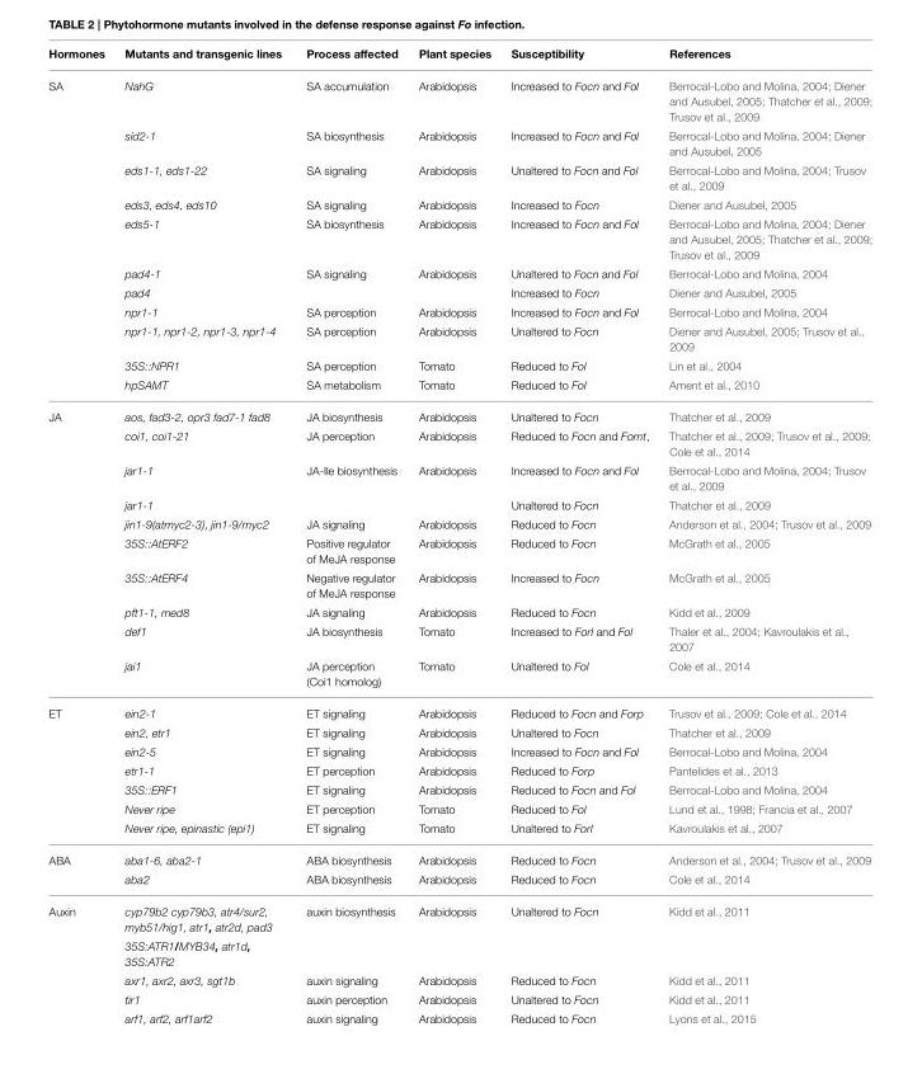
<table><thead><tr><td>Hormones</td><td>Mutants and transgenic lines</td><td>Process affected</td><td>Plant species</td><td>Susceptibility</td><td>References</td></tr></thead><tbody><tr><td rowspan="11">SA</td><td>NahG</td><td>SA accumulation</td><td>Arabidopsis</td><td>Increased to Focn and Fol</td><td>Berrocal-Lobo and Molina, 2004; Diener and Ausubel, 2005; Thatcher et al., 2009; Trusov et al., 2009</td></tr><tr><td>sid2-1</td><td>SA biosynthesis</td><td>Arabidopsis</td><td>Increased to Focn and Fol</td><td>Berrocal-Lobo and Molina, 2004; Diener and Ausubel, 2005</td></tr><tr><td>eds1-1, eds1-22</td><td>SA signaling</td><td>Arabidopsis</td><td>Unaltered to Focn and Fol</td><td>Berrocal-Lobo and Molina, 2004; Trusov et al., 2009</td></tr><tr><td>eds3, eds4, eds10</td><td>SA signaling</td><td>Arabidopsis</td><td>Increased to Focn</td><td>Diener and Ausubel, 2005</td></tr><tr><td>eds5-1</td><td>SA biosynthesis</td><td>Arabidopsis</td><td>Increased to Focn and Fol</td><td>Berrocal-Lobo and Molina, 2004; Diener and Ausubel, 2005; Thatcher et al., 2009; Trusov et al., 2009</td></tr><tr><td>pad4-1</td><td>SA signaling</td><td>Arabidopsis</td><td>Unaltered to Focn and Fol</td><td>Berrocal-Lobo and Molina, 2004</td></tr><tr><td>pad4</td><td></td><td></td><td>Increased to Focn</td><td>Diener and Ausubel, 2005</td></tr><tr><td>npr1-1</td><td>SA perception</td><td>Arabidopsis</td><td>Increased to Focn and Fol</td><td>Berrocal-Lobo and Molina, 2004</td></tr><tr><td>npr1-1, npr1-2, npr1-3, npr1-4</td><td>SA perception</td><td>Arabidopsis</td><td>Unaltered to Focn</td><td>Diener and Ausubel, 2005; Trusov et al., 2009</td></tr><tr><td>35S::NPR1</td><td>SA perception</td><td>Tomato</td><td>Reduced to Fol</td><td>Lin et al., 2004</td></tr><tr><td>hpSAMT</td><td>SA metabolism</td><td>Tomato</td><td>Reduced to Fol</td><td>Ament et al., 2010</td></tr><tr><td rowspan="10">JA</td><td>aos, fad3-2, opr3 fad7-1 fad8</td><td>JA biosynthesis</td><td>Arabidopsis</td><td>Unaltered to Focn</td><td>Thatcher et al., 2009</td></tr><tr><td>coi1, coi1-21</td><td>JA perception</td><td>Arabidopsis</td><td>Reduced to Focn and Fomt,</td><td>Thatcher et al., 2009; Trusov et al., 2009; Cole et al., 2014</td></tr><tr><td>jar1-1</td><td>JA-Ile biosynthesis</td><td>Arabidopsis</td><td>Increased to Focn and Fol</td><td>Berrocal-Lobo and Molina, 2004; Trusov et al., 2009</td></tr><tr><td>jar1-1</td><td></td><td></td><td>Unaltered to Focn</td><td>Thatcher et al., 2009</td></tr><tr><td>jin1-9(atmyc2-3), jin1-9/myc2</td><td>JA signaling</td><td>Arabidopsis</td><td>Reduced to Focn</td><td>Anderson et al., 2004; Trusov et al., 2009</td></tr><tr><td>35S::AtERF2</td><td>Positive regulator of MeJA response</td><td>Arabidopsis</td><td>Reduced to Focn</td><td>McGrath et al., 2005</td></tr><tr><td>35S::AtERF4</td><td>Negative regulator of MeJA response</td><td>Arabidopsis</td><td>Increased to Focn</td><td>McGrath et al., 2005</td></tr><tr><td>pft1-1, med8</td><td>JA signaling</td><td>Arabidopsis</td><td>Reduced to Focn</td><td>Kidd et al., 2009</td></tr><tr><td>def1</td><td>JA biosynthesis</td><td>Tomato</td><td>Increased to Forl and Fol</td><td>Thaler et al., 2004; Kavroulakis et al., 2007</td></tr><tr><td>jai1</td><td>JA perception (Coi1 homolog)</td><td>Tomato</td><td>Unaltered to Fol</td><td>Cole et al., 2014</td></tr><tr><td rowspan="7">ET</td><td>ein2-1</td><td>ET signaling</td><td>Arabidopsis</td><td>Reduced to Focn and Forp</td><td>Trusov et al., 2009; Cole et al., 2014</td></tr><tr><td>ein2, etr1</td><td>ET signaling</td><td>Arabidopsis</td><td>Unaltered to Focn</td><td>Thatcher et al., 2009</td></tr><tr><td>ein2-5</td><td>ET signaling</td><td>Arabidopsis</td><td>Increased to Focn and Fol</td><td>Berrocal-Lobo and Molina, 2004</td></tr><tr><td>etr1-1</td><td>ET perception</td><td>Arabidopsis</td><td>Reduced to Forp</td><td>Pantelides et al., 2013</td></tr><tr><td>35S::ERF1</td><td>ET signaling</td><td>Arabidopsis</td><td>Reduced to Focn and Fol</td><td>Berrocal-Lobo and Molina, 2004</td></tr><tr><td>Never ripe</td><td>ET perception</td><td>Tomato</td><td>Reduced to Fol</td><td>Lund et al., 1998; Francia et al., 2007</td></tr><tr><td>Never ripe, epinastic (epi1)</td><td>ET signaling</td><td>Tomato</td><td>Unaltered to Forl</td><td>Kavroulakis et al., 2007</td></tr><tr><td rowspan="2">ABA</td><td>aba1-6, aba2-1</td><td>ABA biosynthesis</td><td>Arabidopsis</td><td>Reduced to Focn</td><td>Anderson et al., 2004; Trusov et al., 2009</td></tr><tr><td>aba2</td><td>ABA biosynthesis</td><td>Arabidopsis</td><td>Reduced to Focn</td><td>Cole et al., 2014</td></tr><tr><td rowspan="5">Auxin</td><td>cyp79b2 cyp79b3, atr4/sur2, myb51/hig1, atr1, atr2d, pad3</td><td>auxin biosynthesis</td><td>Arabidopsis</td><td>Unaltered to Focn</td><td>Kidd et al., 2011</td></tr><tr><td>35S:ATR1/MYB34, atr1d, 35S:ATR2</td><td></td><td></td><td></td><td></td></tr><tr><td>axr1, axr2, axr3, sgt1b</td><td>auxin signaling</td><td>Arabidopsis</td><td>Reduced to Focn</td><td>Kidd et al., 2011</td></tr><tr><td>tir1</td><td>auxin perception</td><td>Arabidopsis</td><td>Unaltered to Focn</td><td>Kidd et al., 2011</td></tr><tr><td>arf1, arf2, arf1arf2</td><td>auxin signaling</td><td>Arabidopsis</td><td>Reduced to Focn</td><td>Lyons et al., 2015</td></tr></tbody></table>